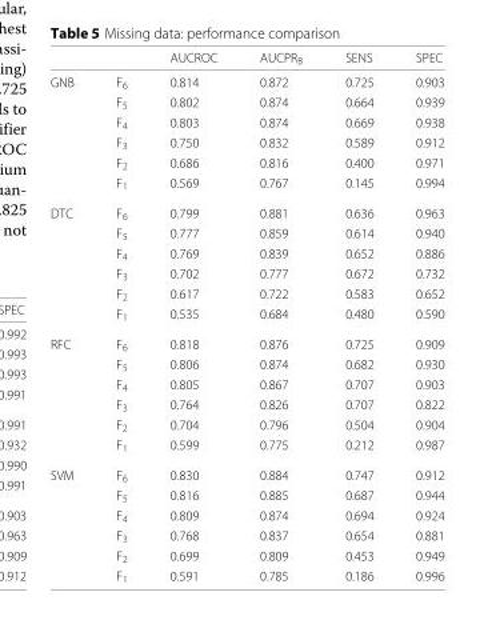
<table><thead><tr><td></td><td></td><td>AUCROC</td><td>AUCPR<sub>B</sub></td><td>SENS</td><td>SPEC</td></tr></thead><tbody><tr><td rowspan="6">GNB</td><td>F<sub>6</sub></td><td>0.814</td><td>0.872</td><td>0.725</td><td>0.903</td></tr><tr><td>F<sub>5</sub></td><td>0.802</td><td>0.874</td><td>0.664</td><td>0.939</td></tr><tr><td>F<sub>4</sub></td><td>0.803</td><td>0.874</td><td>0.669</td><td>0.938</td></tr><tr><td>F<sub>3</sub></td><td>0.750</td><td>0.832</td><td>0.589</td><td>0.912</td></tr><tr><td>F<sub>2</sub></td><td>0.686</td><td>0.816</td><td>0.400</td><td>0.971</td></tr><tr><td>F<sub>1</sub></td><td>0.569</td><td>0.767</td><td>0.145</td><td>0.994</td></tr><tr><td rowspan="6">DTC</td><td>F<sub>6</sub></td><td>0.799</td><td>0.881</td><td>0.636</td><td>0.963</td></tr><tr><td>F<sub>5</sub></td><td>0.777</td><td>0.859</td><td>0.614</td><td>0.940</td></tr><tr><td>F<sub>4</sub></td><td>0.769</td><td>0.839</td><td>0.652</td><td>0.886</td></tr><tr><td>F<sub>3</sub></td><td>0.702</td><td>0.777</td><td>0.672</td><td>0.732</td></tr><tr><td>F<sub>2</sub></td><td>0.617</td><td>0.722</td><td>0.583</td><td>0.652</td></tr><tr><td>F<sub>1</sub></td><td>0.535</td><td>0.684</td><td>0.480</td><td>0.590</td></tr><tr><td rowspan="6">RFC</td><td>F<sub>6</sub></td><td>0.818</td><td>0.876</td><td>0.725</td><td>0.909</td></tr><tr><td>F<sub>5</sub></td><td>0.806</td><td>0.874</td><td>0.682</td><td>0.930</td></tr><tr><td>F<sub>4</sub></td><td>0.805</td><td>0.867</td><td>0.707</td><td>0.903</td></tr><tr><td>F<sub>3</sub></td><td>0.764</td><td>0.826</td><td>0.707</td><td>0.822</td></tr><tr><td>F<sub>2</sub></td><td>0.704</td><td>0.796</td><td>0.504</td><td>0.904</td></tr><tr><td>F<sub>1</sub></td><td>0.599</td><td>0.775</td><td>0.212</td><td>0.987</td></tr><tr><td rowspan="6">SVM</td><td>F<sub>6</sub></td><td>0.830</td><td>0.884</td><td>0.747</td><td>0.912</td></tr><tr><td>F<sub>5</sub></td><td>0.816</td><td>0.885</td><td>0.687</td><td>0.944</td></tr><tr><td>F<sub>4</sub></td><td>0.809</td><td>0.874</td><td>0.694</td><td>0.924</td></tr><tr><td>F<sub>3</sub></td><td>0.768</td><td>0.837</td><td>0.654</td><td>0.881</td></tr><tr><td>F<sub>2</sub></td><td>0.699</td><td>0.809</td><td>0.453</td><td>0.949</td></tr><tr><td>F<sub>1</sub></td><td>0.591</td><td>0.785</td><td>0.186</td><td>0.996</td></tr></tbody></table>